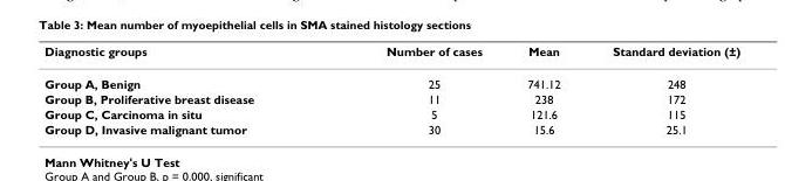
<table><thead><tr><td>Diagnostic groups</td><td>Number of cases</td><td>Mean</td><td>Standard deviation (±)</td></tr></thead><tbody><tr><td>Group A, Benign</td><td>25</td><td>741.12</td><td>248</td></tr><tr><td>Group B, Proliferative breast disease</td><td>11</td><td>238</td><td>172</td></tr><tr><td>Group C, Carcinoma in situ</td><td>5</td><td>121.6</td><td>115</td></tr><tr><td>Group D, Invasive malignant tumor</td><td>30</td><td>15.6</td><td>25.1</td></tr></tbody></table>